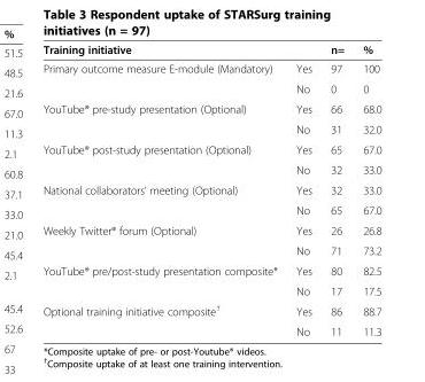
<table><thead><tr><td>Training initiative</td><td></td><td>n=</td><td>%</td></tr></thead><tbody><tr><td rowspan="2">Primary outcome measure E-module (Mandatory)</td><td>Yes</td><td>97</td><td>100</td></tr><tr><td>No</td><td>0</td><td>0</td></tr><tr><td rowspan="2">YouTube® pre-study presentation (Optional)</td><td>Yes</td><td>66</td><td>68.0</td></tr><tr><td>No</td><td>31</td><td>32.0</td></tr><tr><td rowspan="2">YouTube® post-study presentation (Optional)</td><td>Yes</td><td>65</td><td>67.0</td></tr><tr><td>No</td><td>32</td><td>33.0</td></tr><tr><td rowspan="2">National collaborators’ meeting (Optional)</td><td>Yes</td><td>32</td><td>33.0</td></tr><tr><td>No</td><td>65</td><td>67.0</td></tr><tr><td rowspan="2">Weekly Twitter® forum (Optional)</td><td>Yes</td><td>26</td><td>26.8</td></tr><tr><td>No</td><td>71</td><td>73.2</td></tr><tr><td rowspan="2">YouTube® pre/post-study presentation composite*</td><td>Yes</td><td>80</td><td>82.5</td></tr><tr><td>No</td><td>17</td><td>17.5</td></tr><tr><td rowspan="2">Optional training initiative composite<sup>†</sup></td><td>Yes</td><td>86</td><td>88.7</td></tr><tr><td>No</td><td>11</td><td>11.3</td></tr></tbody></table>